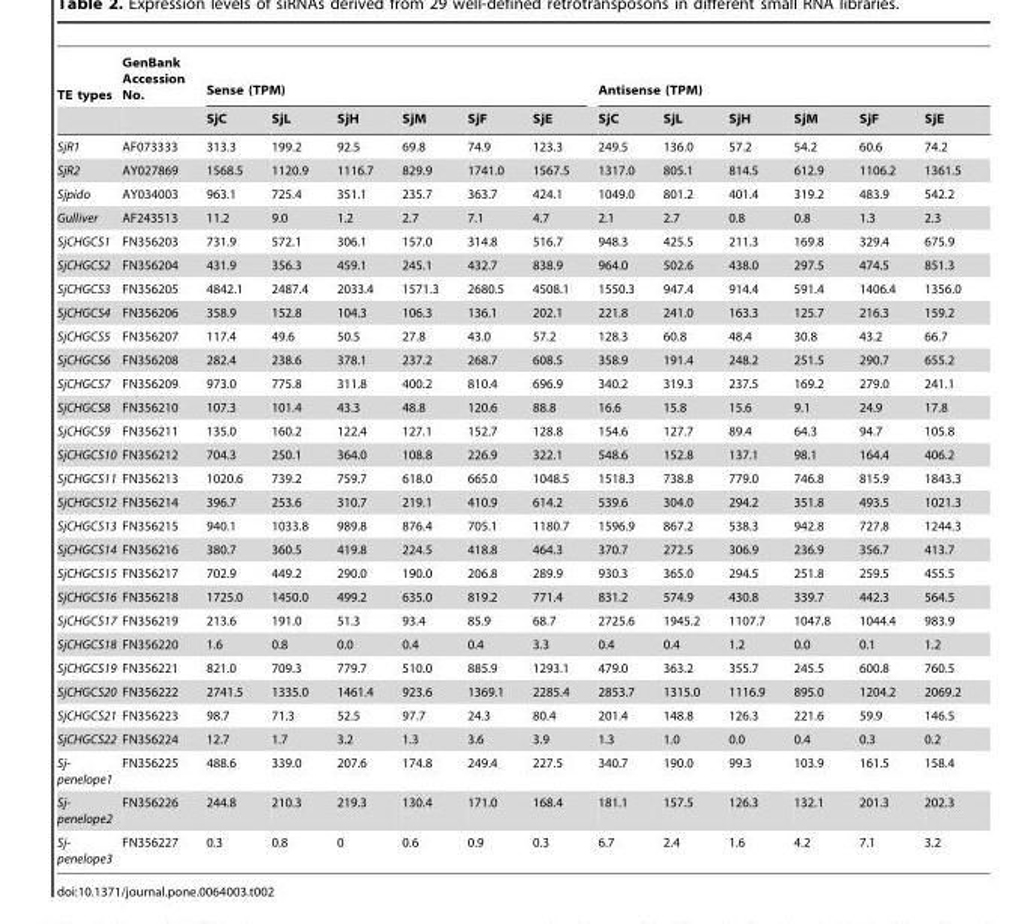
<table><thead><tr><td rowspan="2">TE types</td><td rowspan="2">GenBank Accession No.</td><td colspan="6">Sense (TPM)</td><td colspan="6">Antisense (TPM)</td></tr><tr><td>SjC</td><td>SjL</td><td>SjH</td><td>SjM</td><td>SjF</td><td>SjE</td><td>SjC</td><td>SjL</td><td>SjH</td><td>SjM</td><td>SjF</td><td>SjE</td></tr></thead><tbody><tr><td>SjR1</td><td>AF073333</td><td>313.3</td><td>199.2</td><td>92.5</td><td>69.8</td><td>74.9</td><td>123.3</td><td>249.5</td><td>136.0</td><td>57.2</td><td>54.2</td><td>60.6</td><td>74.2</td></tr><tr><td>SjR2</td><td>AY027869</td><td>1568.5</td><td>1120.9</td><td>1116.7</td><td>829.9</td><td>1741.0</td><td>1567.5</td><td>1317.0</td><td>805.1</td><td>814.5</td><td>612.9</td><td>1106.2</td><td>1361.5</td></tr><tr><td>Sjpido</td><td>AY034003</td><td>963.1</td><td>725.4</td><td>351.1</td><td>235.7</td><td>363.7</td><td>424.1</td><td>1049.0</td><td>801.2</td><td>401.4</td><td>319.2</td><td>483.9</td><td>542.2</td></tr><tr><td>Gulliver</td><td>AF243513</td><td>11.2</td><td>9.0</td><td>1.2</td><td>2.7</td><td>7.1</td><td>4.7</td><td>2.1</td><td>2.7</td><td>0.8</td><td>0.8</td><td>1.3</td><td>2.3</td></tr><tr><td>SjCHGCS1</td><td>FN356203</td><td>731.9</td><td>572.1</td><td>306.1</td><td>157.0</td><td>314.8</td><td>516.7</td><td>948.3</td><td>425.5</td><td>211.3</td><td>169.8</td><td>329.4</td><td>675.9</td></tr><tr><td>SjCHGCS2</td><td>FN356204</td><td>431.9</td><td>356.3</td><td>459.1</td><td>245.1</td><td>432.7</td><td>838.9</td><td>964.0</td><td>502.6</td><td>438.0</td><td>297.5</td><td>474.5</td><td>851.3</td></tr><tr><td>SjCHGCS3</td><td>FN356205</td><td>4842.1</td><td>2487.4</td><td>2033.4</td><td>1571.3</td><td>2680.5</td><td>4508.1</td><td>1550.3</td><td>947.4</td><td>914.4</td><td>591.4</td><td>1406.4</td><td>1356.0</td></tr><tr><td>SjCHGCS4</td><td>FN356206</td><td>358.9</td><td>152.8</td><td>104.3</td><td>106.3</td><td>136.1</td><td>202.1</td><td>221.8</td><td>241.0</td><td>163.3</td><td>125.7</td><td>216.3</td><td>159.2</td></tr><tr><td>SjCHGCS5</td><td>FN356207</td><td>117.4</td><td>49.6</td><td>50.5</td><td>27.8</td><td>43.0</td><td>57.2</td><td>128.3</td><td>60.8</td><td>48.4</td><td>30.8</td><td>43.2</td><td>66.7</td></tr><tr><td>SjCHGCS6</td><td>FN356208</td><td>282.4</td><td>238.6</td><td>378.1</td><td>237.2</td><td>268.7</td><td>608.5</td><td>358.9</td><td>191.4</td><td>248.2</td><td>251.5</td><td>290.7</td><td>655.2</td></tr><tr><td>SjCHGCS7</td><td>FN356209</td><td>973.0</td><td>775.8</td><td>311.8</td><td>400.2</td><td>810.4</td><td>696.9</td><td>340.2</td><td>319.3</td><td>237.5</td><td>169.2</td><td>279.0</td><td>241.1</td></tr><tr><td>SjCHGCS8</td><td>FN356210</td><td>107.3</td><td>101.4</td><td>43.3</td><td>48.8</td><td>120.6</td><td>88.8</td><td>16.6</td><td>15.8</td><td>15.6</td><td>9.1</td><td>24.9</td><td>17.8</td></tr><tr><td>SjCHGCS9</td><td>FN356211</td><td>135.0</td><td>160.2</td><td>122.4</td><td>127.1</td><td>152.7</td><td>128.8</td><td>154.6</td><td>127.7</td><td>89.4</td><td>64.3</td><td>94.7</td><td>105.8</td></tr><tr><td>SjCHGCS10</td><td>FN356212</td><td>704.3</td><td>250.1</td><td>364.0</td><td>108.8</td><td>226.9</td><td>322.1</td><td>548.6</td><td>152.8</td><td>137.1</td><td>98.1</td><td>164.4</td><td>406.2</td></tr><tr><td>SjCHGCS11</td><td>FN356213</td><td>1020.6</td><td>739.2</td><td>759.7</td><td>618.0</td><td>665.0</td><td>1048.5</td><td>1518.3</td><td>738.8</td><td>779.0</td><td>746.8</td><td>815.9</td><td>1843.3</td></tr><tr><td>SjCHGCS12</td><td>FN356214</td><td>396.7</td><td>253.6</td><td>310.7</td><td>219.1</td><td>410.9</td><td>614.2</td><td>539.6</td><td>304.0</td><td>294.2</td><td>351.8</td><td>493.5</td><td>1021.3</td></tr><tr><td>SjCHGCS13</td><td>FN356215</td><td>940.1</td><td>1033.8</td><td>989.8</td><td>876.4</td><td>705.1</td><td>1180.7</td><td>1596.9</td><td>867.2</td><td>538.3</td><td>942.8</td><td>727.8</td><td>1244.3</td></tr><tr><td>SjCHGCS14</td><td>FN356216</td><td>380.7</td><td>360.5</td><td>419.8</td><td>224.5</td><td>418.8</td><td>464.3</td><td>370.7</td><td>272.5</td><td>306.9</td><td>236.9</td><td>356.7</td><td>413.7</td></tr><tr><td>SjCHGCS15</td><td>FN356217</td><td>702.9</td><td>449.2</td><td>290.0</td><td>190.0</td><td>206.8</td><td>289.9</td><td>930.3</td><td>365.0</td><td>294.5</td><td>251.8</td><td>259.5</td><td>455.5</td></tr><tr><td>SjCHGCS16</td><td>FN356218</td><td>1725.0</td><td>1450.0</td><td>499.2</td><td>635.0</td><td>819.2</td><td>771.4</td><td>831.2</td><td>574.9</td><td>430.8</td><td>339.7</td><td>442.3</td><td>564.5</td></tr><tr><td>SjCHGCS17</td><td>FN356219</td><td>213.6</td><td>191.0</td><td>51.3</td><td>93.4</td><td>85.9</td><td>68.7</td><td>2725.6</td><td>1945.2</td><td>1107.7</td><td>1047.8</td><td>1044.4</td><td>983.9</td></tr><tr><td>SjCHGCS18</td><td>FN356220</td><td>1.6</td><td>0.8</td><td>0.0</td><td>0.4</td><td>0.4</td><td>3.3</td><td>0.4</td><td>0.4</td><td>1.2</td><td>0.0</td><td>0.1</td><td>1.2</td></tr><tr><td>SjCHGCS19</td><td>FN356221</td><td>821.0</td><td>709.3</td><td>779.7</td><td>510.0</td><td>885.9</td><td>1293.1</td><td>479.0</td><td>363.2</td><td>355.7</td><td>245.5</td><td>600.8</td><td>760.5</td></tr><tr><td>SjCHGCS20</td><td>FN356222</td><td>2741.5</td><td>1335.0</td><td>1461.4</td><td>923.6</td><td>1369.1</td><td>2285.4</td><td>2853.7</td><td>1315.0</td><td>1116.9</td><td>895.0</td><td>1204.2</td><td>2069.2</td></tr><tr><td>SjCHGCS21</td><td>FN356223</td><td>98.7</td><td>71.3</td><td>52.5</td><td>97.7</td><td>24.3</td><td>80.4</td><td>201.4</td><td>148.8</td><td>126.3</td><td>221.6</td><td>59.9</td><td>146.5</td></tr><tr><td>SjCHGCS22</td><td>FN356224</td><td>12.7</td><td>1.7</td><td>3.2</td><td>1.3</td><td>3.6</td><td>3.9</td><td>1.3</td><td>1.0</td><td>0.0</td><td>0.4</td><td>0.3</td><td>0.2</td></tr><tr><td>Sj- penelope1</td><td>FN356225</td><td>488.6</td><td>339.0</td><td>207.6</td><td>174.8</td><td>249.4</td><td>227.5</td><td>340.7</td><td>190.0</td><td>99.3</td><td>103.9</td><td>161.5</td><td>158.4</td></tr><tr><td>Sj- penelope2</td><td>FN356226</td><td>244.8</td><td>210.3</td><td>219.3</td><td>130.4</td><td>171.0</td><td>168.4</td><td>181.1</td><td>157.5</td><td>126.3</td><td>132.1</td><td>201.3</td><td>202.3</td></tr><tr><td>Sj- penelope3</td><td>FN356227</td><td>0.3</td><td>0.8</td><td>0</td><td>0.6</td><td>0.9</td><td>0.3</td><td>6.7</td><td>2.4</td><td>1.6</td><td>4.2</td><td>7.1</td><td>3.2</td></tr></tbody></table>